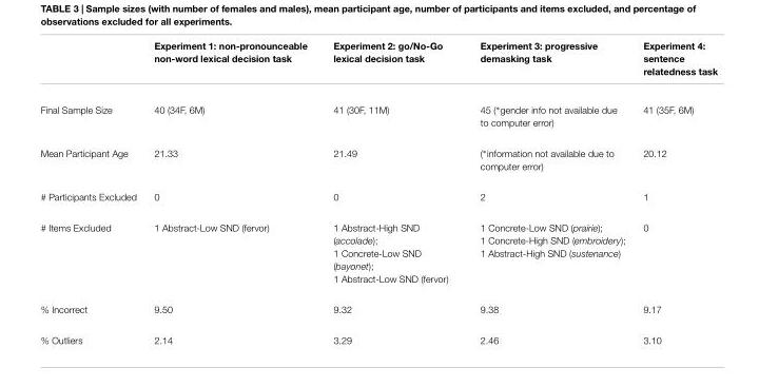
<table><thead><tr><td></td><td>Experiment 1: non-pronounceable non-word lexical decision task</td><td>Experiment 2: go/No-Go lexical decision task</td><td>Experiment 3: progressive demasking task</td><td>Experiment 4: sentence relatedness task</td></tr></thead><tbody><tr><td>Final Sample Size</td><td>40 (34F, 6M)</td><td>41 (30F, 11M)</td><td>45 (∗gender info not available due to computer error)</td><td>41 (35F, 6M)</td></tr><tr><td>Mean Participant Age</td><td>21.33</td><td>21.49</td><td>(∗information not available due to computer error)</td><td>20.12</td></tr><tr><td># Participants Excluded</td><td>0</td><td>0</td><td>2</td><td>1</td></tr><tr><td># Items Excluded</td><td>1 Abstract-Low SND (fervor)</td><td>1 Abstract-High SND (accolade); 1 Concrete-Low SND (bayonet); 1 Abstract-Low SND (fervor)</td><td>1 Concrete-Low SND (prairie); 1 Concrete-High SND (embroidery); 1 Abstract-High SND (sustenance)</td><td>0</td></tr><tr><td>% Incorrect</td><td>9.50</td><td>9.32</td><td>9.38</td><td>9.17</td></tr><tr><td>% Outliers</td><td>2.14</td><td>3.29</td><td>2.46</td><td>3.10</td></tr></tbody></table>